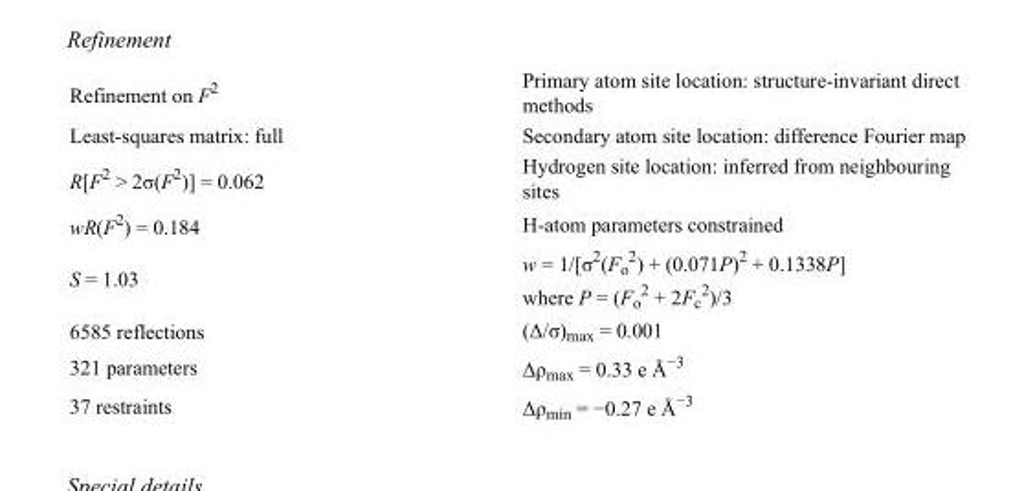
<table><tbody><tr><td>Refinement on F<sup>2</sup></td><td>Primary atom site location: structure-invariant direct methods</td></tr><tr><td>Least-squares matrix: full</td><td>Secondary atom site location: difference Fourier map</td></tr><tr><td>R[F<sup>2</sup> &gt; 2σ(F<sup>2</sup>)] = 0.062</td><td>Hydrogen site location: inferred from neighbouring sites</td></tr><tr><td>wR(F<sup>2</sup>) = 0.184</td><td>H-atom parameters constrained</td></tr><tr><td>S = 1.03</td><td>w = 1/[σ<sup>2</sup>(F<sub>o</sub> <sup>2</sup>) + (0.071P)<sup>2</sup> + 0.1338P] where P = (F<sub>o</sub> <sup>2</sup> + 2F<sub>c</sub> <sup>2</sup>)/3</td></tr><tr><td>6585 reflections</td><td>(Δ/σ)<sub>max</sub> = 0.001</td></tr><tr><td>321 parameters</td><td>Δρ<sub>max</sub> = 0.33 e Å<sup>−3</sup></td></tr><tr><td>37 restraints</td><td>Δρ<sub>min</sub> = −0.27 e Å<sup>−3</sup></td></tr></tbody></table>